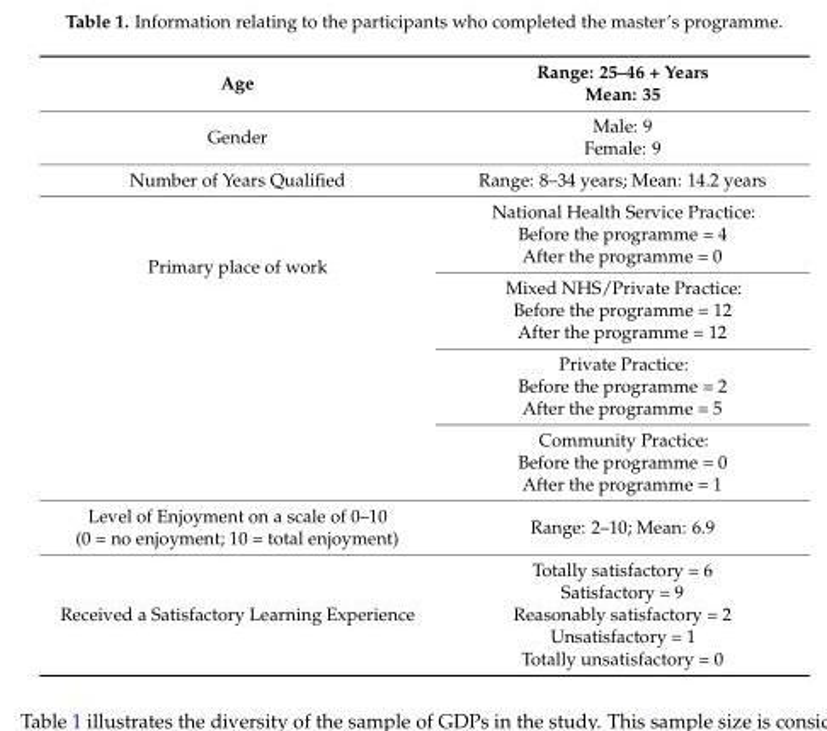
<table><thead><tr><td>Age</td><td>Range: 25–46 + Years Mean: 35</td></tr></thead><tbody><tr><td>Gender</td><td>Male: 9 Female: 9</td></tr><tr><td>Number of Years Qualified</td><td>Range: 8–34 years; Mean: 14.2 years</td></tr><tr><td rowspan="4">Primary place of work</td><td>National Health Service Practice: Before the programme = 4 After the programme = 0</td></tr><tr><td>Mixed NHS/Private Practice: Before the programme = 12 After the programme = 12</td></tr><tr><td>Private Practice: Before the programme = 2 After the programme = 5</td></tr><tr><td>Community Practice: Before the programme = 0 After the programme = 1</td></tr><tr><td>Level of Enjoyment on a scale of 0–10 (0 = no enjoyment; 10 = total enjoyment)</td><td>Range: 2–10; Mean: 6.9</td></tr><tr><td>Received a Satisfactory Learning Experience</td><td>Totally satisfactory = 6 Satisfactory = 9 Reasonably satisfactory = 2 Unsatisfactory = 1 Totally unsatisfactory = 0</td></tr></tbody></table>